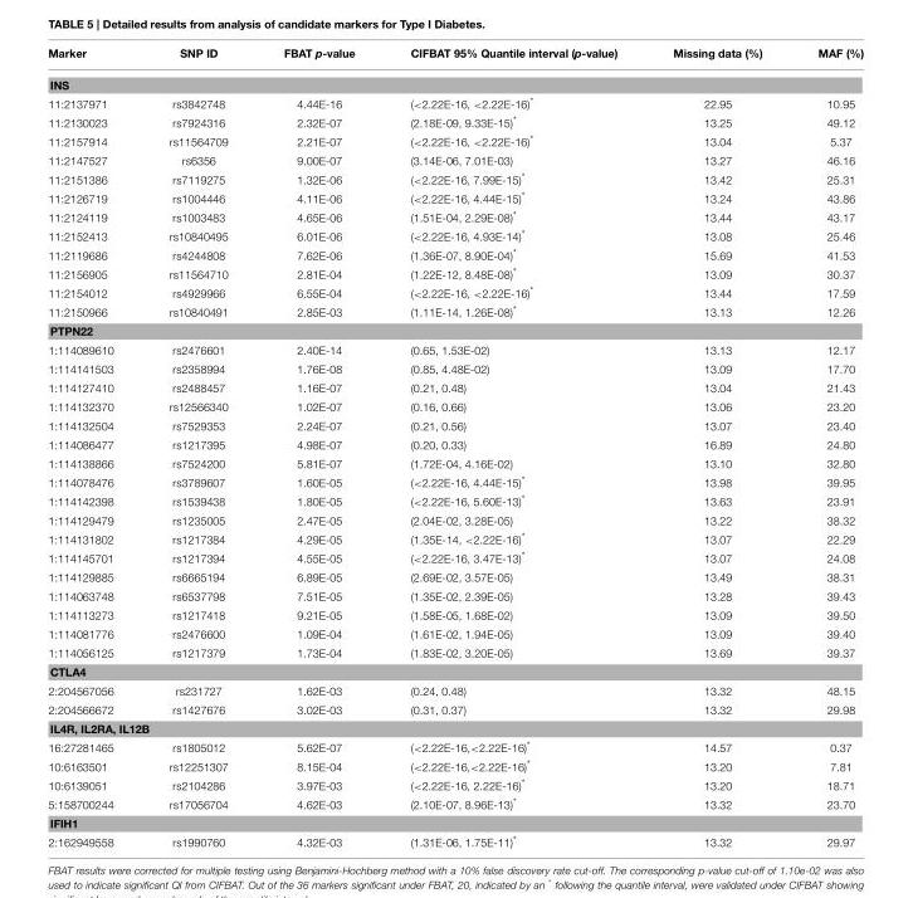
<table><thead><tr><td>Marker</td><td>SNP ID</td><td>FBAT p-value</td><td>CIFBAT 95% Quantile interval (p-value)</td><td>Missing data (%)</td><td>MAF (%)</td></tr></thead><tbody><tr><td colspan="6">INS</td></tr><tr><td>11:2137971</td><td>rs3842748</td><td>4.44E-16</td><td>(&lt;2.22E-16, &lt;2.22E-16)*</td><td>22.95</td><td>10.95</td></tr><tr><td>11:2130023</td><td>rs7924316</td><td>2.32E-07</td><td>(2.18E-09, 9.33E-15)*</td><td>13.25</td><td>49.12</td></tr><tr><td>11:2157914</td><td>rs11564709</td><td>2.21E-07</td><td>(&lt;2.22E-16, &lt;2.22E-16)*</td><td>13.04</td><td>5.37</td></tr><tr><td>11:2147527</td><td>rs6356</td><td>9.00E-07</td><td>(3.14E-06, 7.01E-03)</td><td>13.27</td><td>46.16</td></tr><tr><td>11:2151386</td><td>rs7119275</td><td>1.32E-06</td><td>(&lt;2.22E-16, 7.99E-15)*</td><td>13.42</td><td>25.31</td></tr><tr><td>11:2126719</td><td>rs1004446</td><td>4.11E-06</td><td>(&lt;2.22E-16, 4.44E-15)*</td><td>13.24</td><td>43.86</td></tr><tr><td>11:2124119</td><td>rs1003483</td><td>4.65E-06</td><td>(1.51E-04, 2.29E-08)*</td><td>13.44</td><td>43.17</td></tr><tr><td>11:2152413</td><td>rs10840495</td><td>6.01E-06</td><td>(&lt;2.22E-16, 4.93E-14)*</td><td>13.08</td><td>25.46</td></tr><tr><td>11:2119686</td><td>rs4244808</td><td>7.62E-06</td><td>(1.36E-07, 8.90E-04)*</td><td>15.69</td><td>41.53</td></tr><tr><td>11:2156905</td><td>rs11564710</td><td>2.81E-04</td><td>(1.22E-12, 8.48E-08)*</td><td>13.09</td><td>30.37</td></tr><tr><td>11:2154012</td><td>rs4929966</td><td>6.55E-04</td><td>(&lt;2.22E-16, &lt;2.22E-16)*</td><td>13.44</td><td>17.59</td></tr><tr><td>11:2150966</td><td>rs10840491</td><td>2.85E-03</td><td>(1.11E-14, 1.26E-08)*</td><td>13.13</td><td>12.26</td></tr><tr><td colspan="6">PTPN22</td></tr><tr><td>1:114089610</td><td>rs2476601</td><td>2.40E-14</td><td>(0.65, 1.53E-02)</td><td>13.13</td><td>12.17</td></tr><tr><td>1:114141503</td><td>rs2358994</td><td>1.76E-08</td><td>(0.85, 4.48E-02)</td><td>13.09</td><td>17.70</td></tr><tr><td>1:114127410</td><td>rs2488457</td><td>1.16E-07</td><td>(0.21, 0.48)</td><td>13.04</td><td>21.43</td></tr><tr><td>1:114132370</td><td>rs12566340</td><td>1.02E-07</td><td>(0.16, 0.66)</td><td>13.06</td><td>23.20</td></tr><tr><td>1:114132504</td><td>rs7529353</td><td>2.24E-07</td><td>(0.21, 0.56)</td><td>13.07</td><td>23.40</td></tr><tr><td>1:114086477</td><td>rs1217395</td><td>4.98E-07</td><td>(0.20, 0.33)</td><td>16.89</td><td>24.80</td></tr><tr><td>1:114138866</td><td>rs7524200</td><td>5.81E-07</td><td>(1.72E-04, 4.16E-02)</td><td>13.10</td><td>32.80</td></tr><tr><td>1:114078476</td><td>rs3789607</td><td>1.60E-05</td><td>(&lt;2.22E-16, 4.44E-15)*</td><td>13.98</td><td>39.95</td></tr><tr><td>1:114142398</td><td>rs1539438</td><td>1.80E-05</td><td>(&lt;2.22E-16, 5.60E-13)*</td><td>13.63</td><td>23.91</td></tr><tr><td>1:114129479</td><td>rs1235005</td><td>2.47E-05</td><td>(2.04E-02, 3.28E-05)</td><td>13.22</td><td>38.32</td></tr><tr><td>1:114131802</td><td>rs1217384</td><td>4.29E-05</td><td>(1.35E-14, &lt;2.22E-16)*</td><td>13.07</td><td>22.29</td></tr><tr><td>1:114145701</td><td>rs1217394</td><td>4.55E-05</td><td>(&lt;2.22E-16, 3.47E-13)*</td><td>13.07</td><td>24.08</td></tr><tr><td>1:114129885</td><td>rs6665194</td><td>6.89E-05</td><td>(2.69E-02, 3.57E-05)</td><td>13.49</td><td>38.31</td></tr><tr><td>1:114063748</td><td>rs6537798</td><td>7.51E-05</td><td>(1.35E-02, 2.39E-05)</td><td>13.28</td><td>39.43</td></tr><tr><td>1:114113273</td><td>rs1217418</td><td>9.21E-05</td><td>(1.58E-05, 1.68E-02)</td><td>13.09</td><td>39.50</td></tr><tr><td>1:114081776</td><td>rs2476600</td><td>1.09E-04</td><td>(1.61E-02, 1.94E-05)</td><td>13.09</td><td>39.40</td></tr><tr><td>1:114056125</td><td>rs1217379</td><td>1.73E-04</td><td>(1.83E-02, 3.20E-05)</td><td>13.69</td><td>39.37</td></tr><tr><td colspan="6">CTLA4</td></tr><tr><td>2:204567056</td><td>rs231727</td><td>1.62E-03</td><td>(0.24, 0.48)</td><td>13.32</td><td>48.15</td></tr><tr><td>2:204566672</td><td>rs1427676</td><td>3.02E-03</td><td>(0.31, 0.37)</td><td>13.32</td><td>29.98</td></tr><tr><td colspan="6">IL4R, IL2RA, IL12B</td></tr><tr><td>16:27281465</td><td>rs1805012</td><td>5.62E-07</td><td>(&lt;2.22E-16,&lt;2.22E-16)*</td><td>14.57</td><td>0.37</td></tr><tr><td>10:6163501</td><td>rs12251307</td><td>8.15E-04</td><td>(&lt;2.22E-16,&lt;2.22E-16)*</td><td>13.20</td><td>7.81</td></tr><tr><td>10:6139051</td><td>rs2104286</td><td>3.97E-03</td><td>(&lt;2.22E-16, 2.22E-16)*</td><td>13.20</td><td>18.71</td></tr><tr><td>5:158700244</td><td>rs17056704</td><td>4.62E-03</td><td>(2.10E-07, 8.96E-13)*</td><td>13.32</td><td>23.70</td></tr><tr><td colspan="6">IFIH1</td></tr><tr><td>2:162949558</td><td>rs1990760</td><td>4.32E-03</td><td>(1.31E-06, 1.75E-11)*</td><td>13.32</td><td>29.97</td></tr></tbody></table>